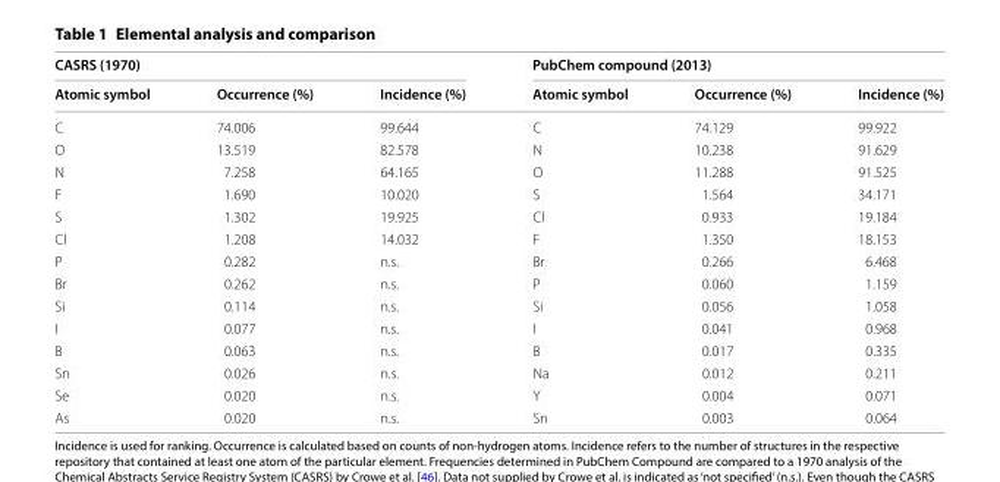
<table><thead><tr><td colspan="3">CASRS (1970)</td><td colspan="3">PubChem compound (2013)</td></tr><tr><td>Atomic symbol</td><td>Occurrence (%)</td><td>Incidence (%)</td><td>Atomic symbol</td><td>Occurrence (%)</td><td>Incidence (%)</td></tr></thead><tbody><tr><td>C</td><td>74.006</td><td>99.644</td><td>C</td><td>74.129</td><td>99.922</td></tr><tr><td>O</td><td>13.519</td><td>82.578</td><td>N</td><td>10.238</td><td>91.629</td></tr><tr><td>N</td><td>7.258</td><td>64.165</td><td>O</td><td>11.288</td><td>91.525</td></tr><tr><td>F</td><td>1.690</td><td>10.020</td><td>S</td><td>1.564</td><td>34.171</td></tr><tr><td>S</td><td>1.302</td><td>19.925</td><td>Cl</td><td>0.933</td><td>19.184</td></tr><tr><td>Cl</td><td>1.208</td><td>14.032</td><td>F</td><td>1.350</td><td>18.153</td></tr><tr><td>P</td><td>0.282</td><td>n.s.</td><td>Br</td><td>0.266</td><td>6.468</td></tr><tr><td>Br</td><td>0.262</td><td>n.s.</td><td>P</td><td>0.060</td><td>1.159</td></tr><tr><td>Si</td><td>0.114</td><td>n.s.</td><td>Si</td><td>0.056</td><td>1.058</td></tr><tr><td>I</td><td>0.077</td><td>n.s.</td><td>I</td><td>0.041</td><td>0.968</td></tr><tr><td>B</td><td>0.063</td><td>n.s.</td><td>B</td><td>0.017</td><td>0.335</td></tr><tr><td>Sn</td><td>0.026</td><td>n.s.</td><td>Na</td><td>0.012</td><td>0.211</td></tr><tr><td>Se</td><td>0.020</td><td>n.s.</td><td>Y</td><td>0.004</td><td>0.071</td></tr><tr><td>As</td><td>0.020</td><td>n.s.</td><td>Sn</td><td>0.003</td><td>0.064</td></tr></tbody></table>